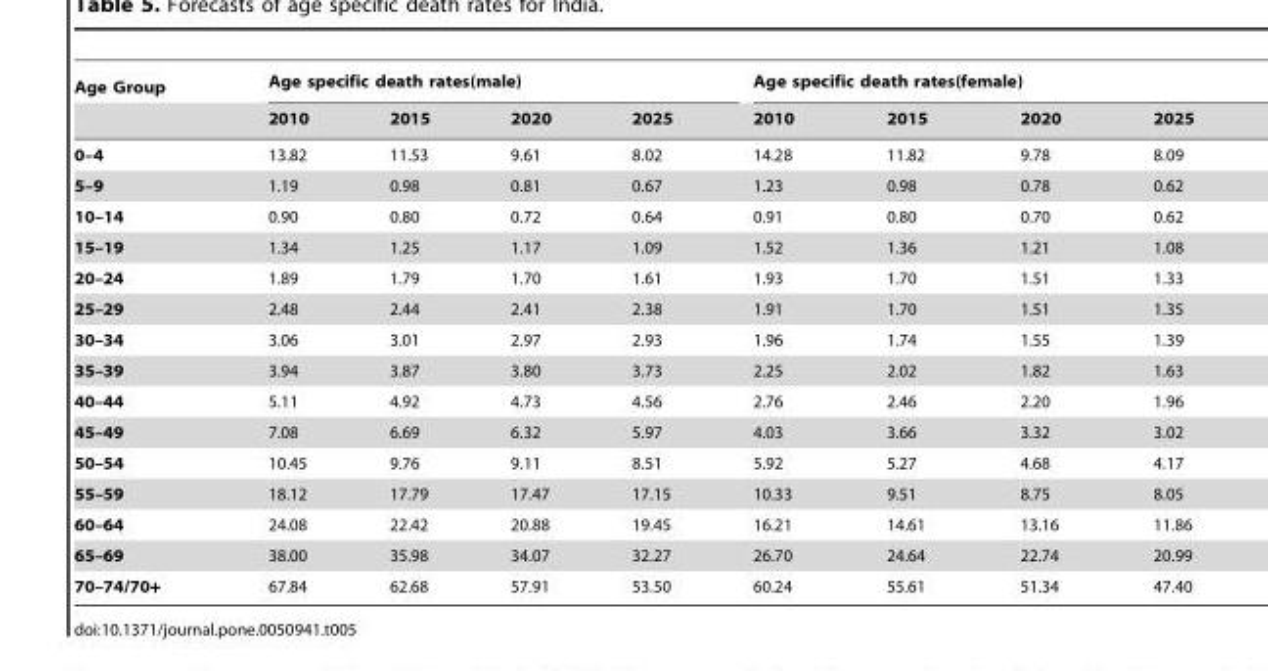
<table><thead><tr><td rowspan="2">Age Group</td><td colspan="4">Age specific death rates(male)</td><td colspan="4">Age specific death rates(female)</td></tr><tr><td>2010</td><td>2015</td><td>2020</td><td>2025</td><td>2010</td><td>2015</td><td>2020</td><td>2025</td></tr></thead><tbody><tr><td>0–4</td><td>13.82</td><td>11.53</td><td>9.61</td><td>8.02</td><td>14.28</td><td>11.82</td><td>9.78</td><td>8.09</td></tr><tr><td>5–9</td><td>1.19</td><td>0.98</td><td>0.81</td><td>0.67</td><td>1.23</td><td>0.98</td><td>0.78</td><td>0.62</td></tr><tr><td>10–14</td><td>0.90</td><td>0.80</td><td>0.72</td><td>0.64</td><td>0.91</td><td>0.80</td><td>0.70</td><td>0.62</td></tr><tr><td>15–19</td><td>1.34</td><td>1.25</td><td>1.17</td><td>1.09</td><td>1.52</td><td>1.36</td><td>1.21</td><td>1.08</td></tr><tr><td>20–24</td><td>1.89</td><td>1.79</td><td>1.70</td><td>1.61</td><td>1.93</td><td>1.70</td><td>1.51</td><td>1.33</td></tr><tr><td>25–29</td><td>2.48</td><td>2.44</td><td>2.41</td><td>2.38</td><td>1.91</td><td>1.70</td><td>1.51</td><td>1.35</td></tr><tr><td>30–34</td><td>3.06</td><td>3.01</td><td>2.97</td><td>2.93</td><td>1.96</td><td>1.74</td><td>1.55</td><td>1.39</td></tr><tr><td>35–39</td><td>3.94</td><td>3.87</td><td>3.80</td><td>3.73</td><td>2.25</td><td>2.02</td><td>1.82</td><td>1.63</td></tr><tr><td>40–44</td><td>5.11</td><td>4.92</td><td>4.73</td><td>4.56</td><td>2.76</td><td>2.46</td><td>2.20</td><td>1.96</td></tr><tr><td>45–49</td><td>7.08</td><td>6.69</td><td>6.32</td><td>5.97</td><td>4.03</td><td>3.66</td><td>3.32</td><td>3.02</td></tr><tr><td>50–54</td><td>10.45</td><td>9.76</td><td>9.11</td><td>8.51</td><td>5.92</td><td>5.27</td><td>4.68</td><td>4.17</td></tr><tr><td>55–59</td><td>18.12</td><td>17.79</td><td>17.47</td><td>17.15</td><td>10.33</td><td>9.51</td><td>8.75</td><td>8.05</td></tr><tr><td>60–64</td><td>24.08</td><td>22.42</td><td>20.88</td><td>19.45</td><td>16.21</td><td>14.61</td><td>13.16</td><td>11.86</td></tr><tr><td>65–69</td><td>38.00</td><td>35.98</td><td>34.07</td><td>32.27</td><td>26.70</td><td>24.64</td><td>22.74</td><td>20.99</td></tr><tr><td>70–74/70+</td><td>67.84</td><td>62.68</td><td>57.91</td><td>53.50</td><td>60.24</td><td>55.61</td><td>51.34</td><td>47.40</td></tr></tbody></table>